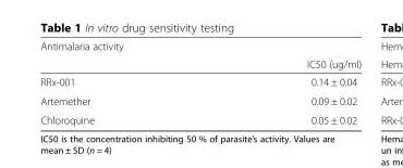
<table><thead><tr><td colspan="2">Antimalaria activity</td></tr><tr><td></td><td>IC50 (ug/ml)</td></tr></thead><tbody><tr><td>RRx-001</td><td>0.14 ± 0.04</td></tr><tr><td>Artemether</td><td>0.09 ± 0.02</td></tr><tr><td>Chloroquine</td><td>0.05 ± 0.02</td></tr></tbody></table>